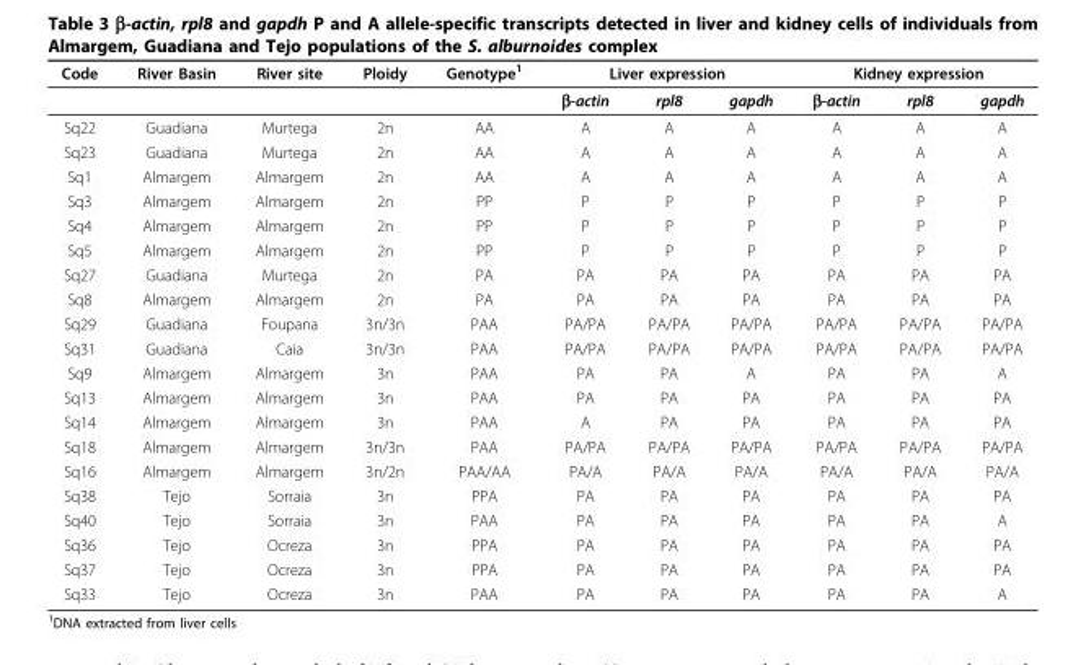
<table><thead><tr><td rowspan="2">Code</td><td rowspan="2">River Basin</td><td rowspan="2">River site</td><td rowspan="2">Ploidy</td><td rowspan="2">Genotype<sup>1</sup></td><td colspan="3">Liver expression</td><td colspan="3">Kidney expression</td></tr><tr><td>β-actin</td><td>rpl8</td><td>gapdh</td><td>β-actin</td><td>rpl8</td><td>gapdh</td></tr></thead><tbody><tr><td>Sq22</td><td>Guadiana</td><td>Murtega</td><td>2n</td><td>AA</td><td>A</td><td>A</td><td>A</td><td>A</td><td>A</td><td>A</td></tr><tr><td>Sq23</td><td>Guadiana</td><td>Murtega</td><td>2n</td><td>AA</td><td>A</td><td>A</td><td>A</td><td>A</td><td>A</td><td>A</td></tr><tr><td>Sq1</td><td>Almargem</td><td>Almargem</td><td>2n</td><td>AA</td><td>A</td><td>A</td><td>A</td><td>A</td><td>A</td><td>A</td></tr><tr><td>Sq3</td><td>Almargem</td><td>Almargem</td><td>2n</td><td>PP</td><td>P</td><td>P</td><td>P</td><td>P</td><td>P</td><td>P</td></tr><tr><td>Sq4</td><td>Almargem</td><td>Almargem</td><td>2n</td><td>PP</td><td>P</td><td>P</td><td>P</td><td>P</td><td>P</td><td>P</td></tr><tr><td>Sq5</td><td>Almargem</td><td>Almargem</td><td>2n</td><td>PP</td><td>P</td><td>P</td><td>P</td><td>P</td><td>P</td><td>P</td></tr><tr><td>Sq27</td><td>Guadiana</td><td>Murtega</td><td>2n</td><td>PA</td><td>PA</td><td>PA</td><td>PA</td><td>PA</td><td>PA</td><td>PA</td></tr><tr><td>Sq8</td><td>Almargem</td><td>Almargem</td><td>2n</td><td>PA</td><td>PA</td><td>PA</td><td>PA</td><td>PA</td><td>PA</td><td>PA</td></tr><tr><td>Sq29</td><td>Guadiana</td><td>Foupana</td><td>3n/3n</td><td>PAA</td><td>PA/PA</td><td>PA/PA</td><td>PA/PA</td><td>PA/PA</td><td>PA/PA</td><td>PA/PA</td></tr><tr><td>Sq31</td><td>Guadiana</td><td>Caia</td><td>3n/3n</td><td>PAA</td><td>PA/PA</td><td>PA/PA</td><td>PA/PA</td><td>PA/PA</td><td>PA/PA</td><td>PA/PA</td></tr><tr><td>Sq9</td><td>Almargem</td><td>Almargem</td><td>3n</td><td>PAA</td><td>PA</td><td>PA</td><td>A</td><td>PA</td><td>PA</td><td>A</td></tr><tr><td>Sq13</td><td>Almargem</td><td>Almargem</td><td>3n</td><td>PAA</td><td>PA</td><td>PA</td><td>PA</td><td>PA</td><td>PA</td><td>PA</td></tr><tr><td>Sq14</td><td>Almargem</td><td>Almargem</td><td>3n</td><td>PAA</td><td>A</td><td>PA</td><td>PA</td><td>PA</td><td>PA</td><td>PA</td></tr><tr><td>Sq18</td><td>Almargem</td><td>Almargem</td><td>3n/3n</td><td>PAA</td><td>PA/PA</td><td>PA/PA</td><td>PA/PA</td><td>PA/PA</td><td>PA/PA</td><td>PA/PA</td></tr><tr><td>Sq16</td><td>Almargem</td><td>Almargem</td><td>3n/2n</td><td>PAA/AA</td><td>PA/A</td><td>PA/A</td><td>PA/A</td><td>PA/A</td><td>PA/A</td><td>PA/A</td></tr><tr><td>Sq38</td><td>Tejo</td><td>Sorraia</td><td>3n</td><td>PPA</td><td>PA</td><td>PA</td><td>PA</td><td>PA</td><td>PA</td><td>PA</td></tr><tr><td>Sq40</td><td>Tejo</td><td>Sorraia</td><td>3n</td><td>PAA</td><td>PA</td><td>PA</td><td>PA</td><td>PA</td><td>PA</td><td>A</td></tr><tr><td>Sq36</td><td>Tejo</td><td>Ocreza</td><td>3n</td><td>PPA</td><td>PA</td><td>PA</td><td>PA</td><td>PA</td><td>PA</td><td>PA</td></tr><tr><td>Sq37</td><td>Tejo</td><td>Ocreza</td><td>3n</td><td>PPA</td><td>PA</td><td>PA</td><td>PA</td><td>PA</td><td>PA</td><td>PA</td></tr><tr><td>Sq33</td><td>Tejo</td><td>Ocreza</td><td>3n</td><td>PAA</td><td>PA</td><td>PA</td><td>PA</td><td>PA</td><td>PA</td><td>A</td></tr></tbody></table>